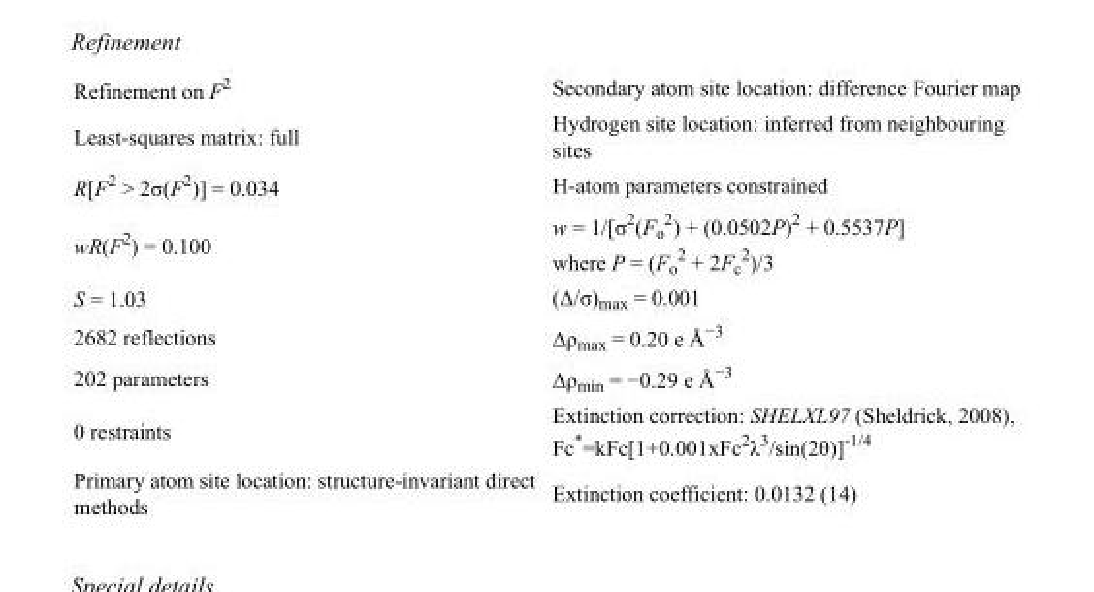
<table><tbody><tr><td>Refinement on F<sup>2</sup></td><td>Secondary atom site location: difference Fourier map</td></tr><tr><td>Least-squares matrix: full</td><td>Hydrogen site location: inferred from neighbouring sites</td></tr><tr><td>R[F<sup>2</sup> &gt; 2σ(F<sup>2</sup>)] = 0.034</td><td>H-atom parameters constrained</td></tr><tr><td>wR(F<sup>2</sup>) = 0.100</td><td>w = 1/[σ<sup>2</sup>(F<sub>o</sub> <sup>2</sup>) + (0.0502P)<sup>2</sup> + 0.5537P] where P = (F<sub>o</sub> <sup>2</sup> + 2F<sub>c</sub> <sup>2</sup>)/3</td></tr><tr><td>S = 1.03</td><td>(Δ/σ)<sub>max</sub> = 0.001</td></tr><tr><td>2682 reflections</td><td>Δρ<sub>max</sub> = 0.20 e Å<sup>−3</sup></td></tr><tr><td>202 parameters</td><td>Δρ<sub>min</sub> = −0.29 e Å<sup>−3</sup></td></tr><tr><td>0 restraints</td><td>Extinction correction: SHELXL97 (Sheldrick, 2008), Fc*=kFc[1+0.001xFc<sup>2</sup>λ<sup>3</sup>/sin(2θ)]<sup>-1/4</sup></td></tr><tr><td>Primary atom site location: structure-invariant direct methods</td><td>Extinction coefficient: 0.0132 (14)</td></tr></tbody></table>